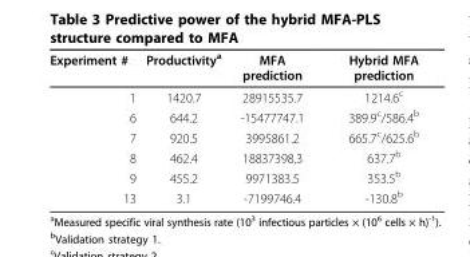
<table><thead><tr><td>Experiment #</td><td>Productivity<sup>a</sup></td><td>MFA prediction</td><td>Hybrid MFA prediction</td></tr></thead><tbody><tr><td>1</td><td>1420.7</td><td>28915535.7</td><td>1214.6<sup>c</sup></td></tr><tr><td>6</td><td>644.2</td><td>-15477747.1</td><td>389.9<sup>c</sup>/586.4<sup>b</sup></td></tr><tr><td>7</td><td>920.5</td><td>3995861.2</td><td>665.7<sup>c</sup>/625.6<sup>b</sup></td></tr><tr><td>8</td><td>462.4</td><td>18837398.3</td><td>637.7<sup>b</sup></td></tr><tr><td>9</td><td>455.2</td><td>9971383.5</td><td>353.5<sup>b</sup></td></tr><tr><td>13</td><td>3.1</td><td>-7199746.4</td><td>-130.8<sup>b</sup></td></tr></tbody></table>